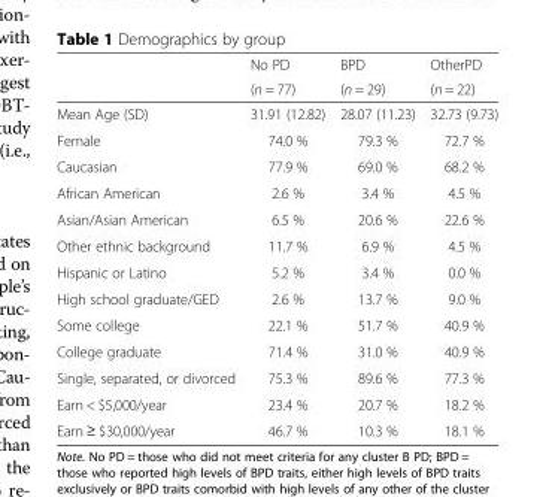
<table><thead><tr><td rowspan="2"></td><td rowspan="2">No PD (n = 77)</td><td rowspan="2">BPD (n = 29)</td><td rowspan="2">OtherPD (n = 22)</td></tr><tr></tr></thead><tbody><tr><td>Mean Age (SD)</td><td>31.91 (12.82)</td><td>28.07 (11.23)</td><td>32.73 (9.73)</td></tr><tr><td>Female</td><td>74.0 %</td><td>79.3 %</td><td>72.7 %</td></tr><tr><td>Caucasian</td><td>77.9 %</td><td>69.0 %</td><td>68.2 %</td></tr><tr><td>African American</td><td>2.6 %</td><td>3.4 %</td><td>4.5 %</td></tr><tr><td>Asian/Asian American</td><td>6.5 %</td><td>20.6 %</td><td>22.6 %</td></tr><tr><td>Other ethnic background</td><td>11.7 %</td><td>6.9 %</td><td>4.5 %</td></tr><tr><td>Hispanic or Latino</td><td>5.2 %</td><td>3.4 %</td><td>0.0 %</td></tr><tr><td>High school graduate/GED</td><td>2.6 %</td><td>13.7 %</td><td>9.0 %</td></tr><tr><td>Some college</td><td>22.1 %</td><td>51.7 %</td><td>40.9 %</td></tr><tr><td>College graduate</td><td>71.4 %</td><td>31.0 %</td><td>40.9 %</td></tr><tr><td>Single, separated, or divorced</td><td>75.3 %</td><td>89.6 %</td><td>77.3 %</td></tr><tr><td>Earn &lt; $5,000/year</td><td>23.4 %</td><td>20.7 %</td><td>18.2 %</td></tr><tr><td>Earn ≥ $30,000/year</td><td>46.7 %</td><td>10.3 %</td><td>18.1 %</td></tr></tbody></table>